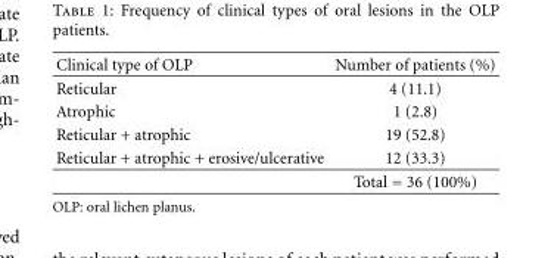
<table><thead><tr><td>Clinical type of OLP</td><td>Number of patients (%)</td></tr></thead><tbody><tr><td>Reticular</td><td>4 (11.1)</td></tr><tr><td>Atrophic</td><td>1 (2.8)</td></tr><tr><td>Reticular + atrophic</td><td>19 (52.8)</td></tr><tr><td rowspan="2">Reticular + atrophic + erosive/ulcerative</td><td>12 (33.3)</td></tr><tr><td>Total = 36 (100%)</td></tr></tbody></table>